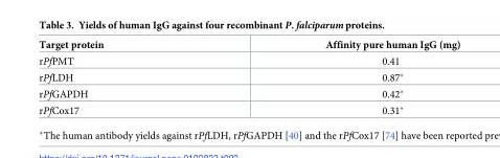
<table><thead><tr><td>Target protein</td><td>Affinity pure human IgG (mg)</td></tr></thead><tbody><tr><td>rPfPMT</td><td>0.41</td></tr><tr><td>rPfLDH</td><td>0.87*</td></tr><tr><td>rPfGAPDH</td><td>0.42*</td></tr><tr><td>rPfCox17</td><td>0.31*</td></tr></tbody></table>